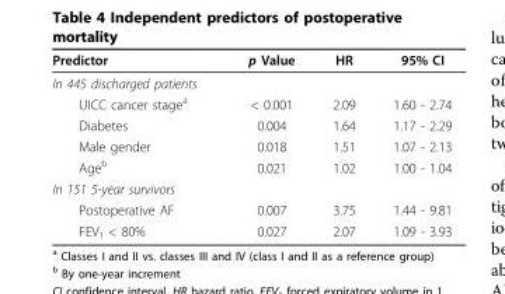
<table><thead><tr><td>Predictor</td><td>p Value</td><td>HR</td><td>95% CI</td></tr></thead><tbody><tr><td colspan="4">In 445 discharged patients</td></tr><tr><td>UICC cancer stage<sup>a</sup></td><td>&lt; 0.001</td><td>2.09</td><td>1.60 - 2.74</td></tr><tr><td>Diabetes</td><td>0.004</td><td>1.64</td><td>1.17 - 2.29</td></tr><tr><td>Male gender</td><td>0.018</td><td>1.51</td><td>1.07 - 2.13</td></tr><tr><td>Age<sup>b</sup></td><td>0.021</td><td>1.02</td><td>1.00 - 1.04</td></tr><tr><td colspan="4">In 151 5-year survivors</td></tr><tr><td>Postoperative AF</td><td>0.007</td><td>3.75</td><td>1.44 - 9.81</td></tr><tr><td>FEV<sub>1</sub> &lt; 80%</td><td>0.027</td><td>2.07</td><td>1.09 - 3.93</td></tr></tbody></table>